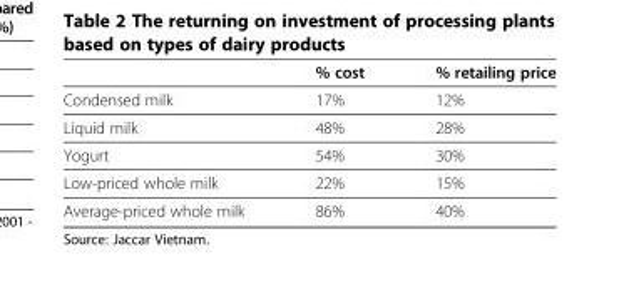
<table><thead><tr><td></td><td>% cost</td><td>% retailing price</td></tr></thead><tbody><tr><td>Condensed milk</td><td>17%</td><td>12%</td></tr><tr><td>Liquid milk</td><td>48%</td><td>28%</td></tr><tr><td>Yogurt</td><td>54%</td><td>30%</td></tr><tr><td>Low-priced whole milk</td><td>22%</td><td>15%</td></tr><tr><td>Average-priced whole milk</td><td>86%</td><td>40%</td></tr></tbody></table>